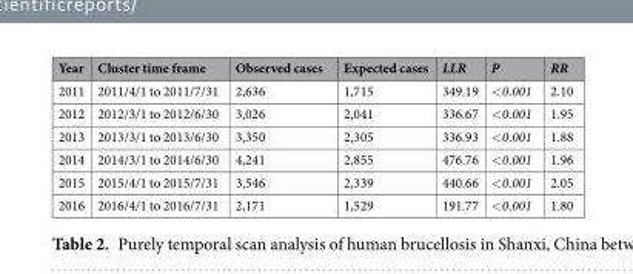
<table><thead><tr><td>Year</td><td>Cluster time frame</td><td>Observed cases</td><td>Expected cases</td><td>LLR</td><td>P</td><td>RR</td></tr></thead><tbody><tr><td>2011</td><td>2011/4/1 to 2011/7/31</td><td>2,636</td><td>1,715</td><td>349.19</td><td>&lt;0.001</td><td>2.10</td></tr><tr><td>2012</td><td>2012/3/1 to 2012/6/30</td><td>3,026</td><td>2,041</td><td>336.67</td><td>&lt;0.001</td><td>1.95</td></tr><tr><td>2013</td><td>2013/3/1 to 2013/6/30</td><td>3,350</td><td>2,305</td><td>336.93</td><td>&lt;0.001</td><td>1.88</td></tr><tr><td>2014</td><td>2014/3/1 to 2014/6/30</td><td>4,241</td><td>2,855</td><td>476.76</td><td>&lt;0.001</td><td>1.96</td></tr><tr><td>2015</td><td>2015/4/1 to 2015/7/31</td><td>3,546</td><td>2,339</td><td>440.66</td><td>&lt;0.001</td><td>2.05</td></tr><tr><td>2016</td><td>2016/4/1 to 2016/7/31</td><td>2,171</td><td>1,529</td><td>191.77</td><td>&lt;0.001</td><td>1.80</td></tr></tbody></table>